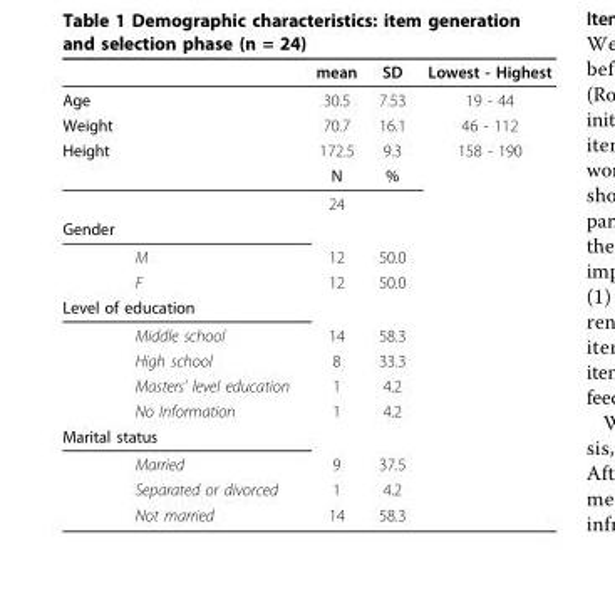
<table><thead><tr><td></td><td></td><td>mean</td><td>SD</td><td>Lowest - Highest</td></tr></thead><tbody><tr><td>Age</td><td></td><td>30.5</td><td>7.53</td><td>19 - 44</td></tr><tr><td>Weight</td><td></td><td>70.7</td><td>16.1</td><td>46 - 112</td></tr><tr><td rowspan="3">Height</td><td></td><td>172.5</td><td>9.3</td><td>158 - 190</td></tr><tr><td></td><td>N</td><td>%</td><td></td></tr><tr><td></td><td>24</td><td></td><td></td></tr><tr><td colspan="5">Gender</td></tr><tr><td></td><td>M</td><td>12</td><td>50.0</td><td></td></tr><tr><td></td><td>F</td><td>12</td><td>50.0</td><td></td></tr><tr><td colspan="5">Level of education</td></tr><tr><td></td><td>Middle school</td><td>14</td><td>58.3</td><td></td></tr><tr><td></td><td>High school</td><td>8</td><td>33.3</td><td></td></tr><tr><td></td><td>Masters’ level education</td><td>1</td><td>4.2</td><td></td></tr><tr><td></td><td>No Information</td><td>1</td><td>4.2</td><td></td></tr><tr><td colspan="5">Marital status</td></tr><tr><td></td><td>Married</td><td>9</td><td>37.5</td><td></td></tr><tr><td></td><td>Separated or divorced</td><td>1</td><td>4.2</td><td></td></tr><tr><td></td><td>Not married</td><td>14</td><td>58.3</td><td></td></tr></tbody></table>